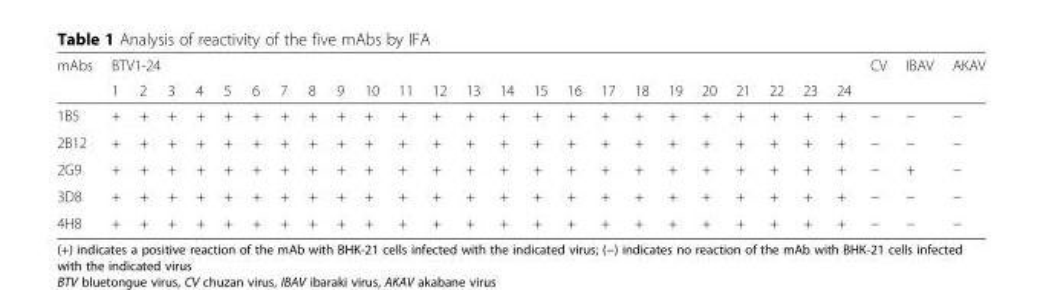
<table><thead><tr><td rowspan="2">mAbs</td><td colspan="24">BTV1-24</td><td rowspan="2">CV</td><td rowspan="2">IBAV</td><td rowspan="2">AKAV</td></tr><tr><td>1</td><td>2</td><td>3</td><td>4</td><td>5</td><td>6</td><td>7</td><td>8</td><td>9</td><td>10</td><td>11</td><td>12</td><td>13</td><td>14</td><td>15</td><td>16</td><td>17</td><td>18</td><td>19</td><td>20</td><td>21</td><td>22</td><td>23</td><td>24</td></tr></thead><tbody><tr><td>1B5</td><td>+</td><td>+</td><td>+</td><td>+</td><td>+</td><td>+</td><td>+</td><td>+</td><td>+</td><td>+</td><td>+</td><td>+</td><td>+</td><td>+</td><td>+</td><td>+</td><td>+</td><td>+</td><td>+</td><td>+</td><td>+</td><td>+</td><td>+</td><td>+</td><td>−</td><td>−</td><td>−</td></tr><tr><td>2B12</td><td>+</td><td>+</td><td>+</td><td>+</td><td>+</td><td>+</td><td>+</td><td>+</td><td>+</td><td>+</td><td>+</td><td>+</td><td>+</td><td>+</td><td>+</td><td>+</td><td>+</td><td>+</td><td>+</td><td>+</td><td>+</td><td>+</td><td>+</td><td>+</td><td>−</td><td>−</td><td>−</td></tr><tr><td>2G9</td><td>+</td><td>+</td><td>+</td><td>+</td><td>+</td><td>+</td><td>+</td><td>+</td><td>+</td><td>+</td><td>+</td><td>+</td><td>+</td><td>+</td><td>+</td><td>+</td><td>+</td><td>+</td><td>+</td><td>+</td><td>+</td><td>+</td><td>+</td><td>+</td><td>−</td><td>+</td><td>−</td></tr><tr><td>3D8</td><td>+</td><td>+</td><td>+</td><td>+</td><td>+</td><td>+</td><td>+</td><td>+</td><td>+</td><td>+</td><td>+</td><td>+</td><td>+</td><td>+</td><td>+</td><td>+</td><td>+</td><td>+</td><td>+</td><td>+</td><td>+</td><td>+</td><td>+</td><td>+</td><td>−</td><td>−</td><td>−</td></tr><tr><td>4H8</td><td>+</td><td>+</td><td>+</td><td>+</td><td>+</td><td>+</td><td>+</td><td>+</td><td>+</td><td>+</td><td>+</td><td>+</td><td>+</td><td>+</td><td>+</td><td>+</td><td>+</td><td>+</td><td>+</td><td>+</td><td>+</td><td>+</td><td>+</td><td>+</td><td>−</td><td>−</td><td>−</td></tr></tbody></table>